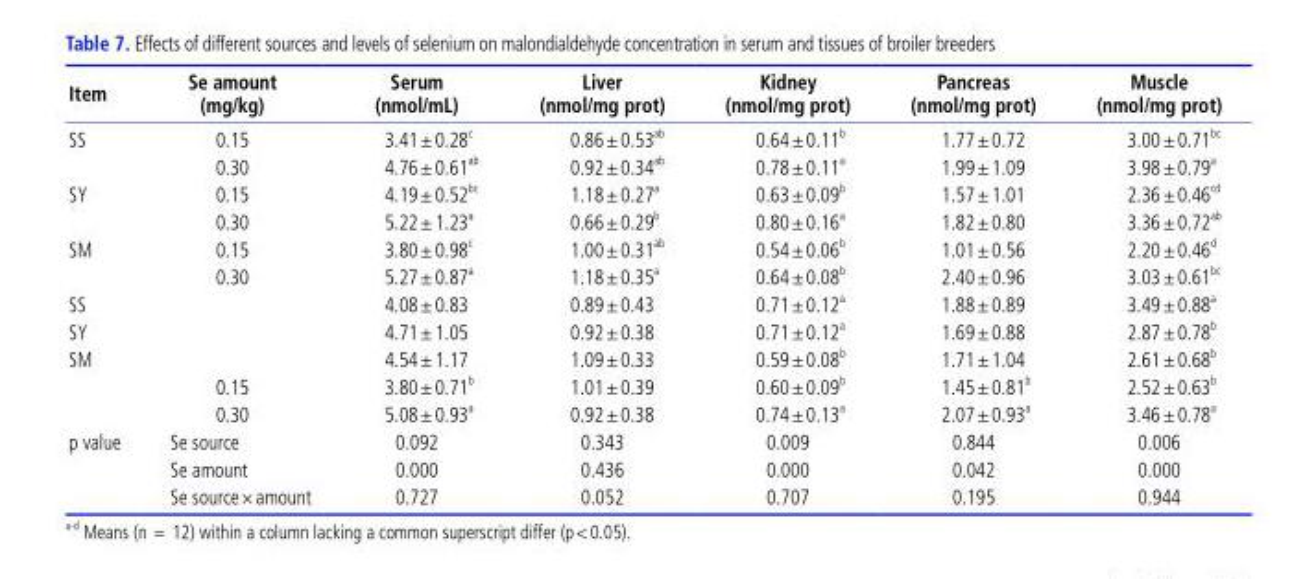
<table><thead><tr><td>Item</td><td>Se amount (mg/kg)</td><td>Serum (nmol/mL)</td><td>Liver (nmol/mg prot)</td><td>Kidney (nmol/mg prot)</td><td>Pancreas (nmol/mg prot)</td><td>Muscle (nmol/mg prot)</td></tr></thead><tbody><tr><td rowspan="2">SS</td><td>0.15</td><td>3.41±0.28 <sup>c</sup></td><td>0.86±0.53 <sup>ab</sup></td><td>0.64±0.11 <sup>b</sup></td><td>1.77±0.72</td><td>3.00±0.71 <sup>bc</sup></td></tr><tr><td>0.30</td><td>4.76±0.61 <sup>ab</sup></td><td>0.92±0.34 <sup>ab</sup></td><td>0.78±0.11 <sup>a</sup></td><td>1.99±1.09</td><td>3.98±0.79 <sup>a</sup></td></tr><tr><td rowspan="2">SY</td><td>0.15</td><td>4.19±0.52 <sup>bc</sup></td><td>1.18±0.27 <sup>a</sup></td><td>0.63±0.09 <sup>b</sup></td><td>1.57±1.01</td><td>2.36±0.46 <sup>cd</sup></td></tr><tr><td>0.30</td><td>5.22±1.23 <sup>a</sup></td><td>0.66±0.29 <sup>b</sup></td><td>0.80±0.16 <sup>a</sup></td><td>1.82±0.80</td><td>3.36±0.72 <sup>ab</sup></td></tr><tr><td rowspan="2">SM</td><td>0.15</td><td>3.80±0.98 <sup>c</sup></td><td>1.00±0.31 <sup>ab</sup></td><td>0.54±0.06 <sup>b</sup></td><td>1.01±0.56</td><td>2.20±0.46 <sup>d</sup></td></tr><tr><td>0.30</td><td>5.27±0.87 <sup>a</sup></td><td>1.18±0.35 <sup>a</sup></td><td>0.64±0.08 <sup>b</sup></td><td>2.40±0.96</td><td>3.03±0.61 <sup>bc</sup></td></tr><tr><td>SS</td><td></td><td>4.08±0.83</td><td>0.89±0.43</td><td>0.71±0.12 <sup>a</sup></td><td>1.88±0.89</td><td>3.49±0.88 <sup>a</sup></td></tr><tr><td>SY</td><td></td><td>4.71±1.05</td><td>0.92±0.38</td><td>0.71±0.12 <sup>a</sup></td><td>1.69±0.88</td><td>2.87±0.78 <sup>b</sup></td></tr><tr><td rowspan="3">SM</td><td></td><td>4.54±1.17</td><td>1.09±0.33</td><td>0.59±0.08 <sup>b</sup></td><td>1.71±1.04</td><td>2.61±0.68 <sup>b</sup></td></tr><tr><td>0.15</td><td>3.80±0.71 <sup>b</sup></td><td>1.01±0.39</td><td>0.60±0.09 <sup>b</sup></td><td>1.45±0.81 <sup>b</sup></td><td>2.52±0.63 <sup>b</sup></td></tr><tr><td>0.30</td><td>5.08±0.93 <sup>a</sup></td><td>0.92±0.38</td><td>0.74±0.13 <sup>a</sup></td><td>2.07±0.93 <sup>a</sup></td><td>3.46±0.78 <sup>a</sup></td></tr><tr><td rowspan="3">p value</td><td>Se source</td><td>0.092</td><td>0.343</td><td>0.009</td><td>0.844</td><td>0.006</td></tr><tr><td>Se amount</td><td>0.000</td><td>0.436</td><td>0.000</td><td>0.042</td><td>0.000</td></tr><tr><td>Se source×amount</td><td>0.727</td><td>0.052</td><td>0.707</td><td>0.195</td><td>0.944</td></tr></tbody></table>